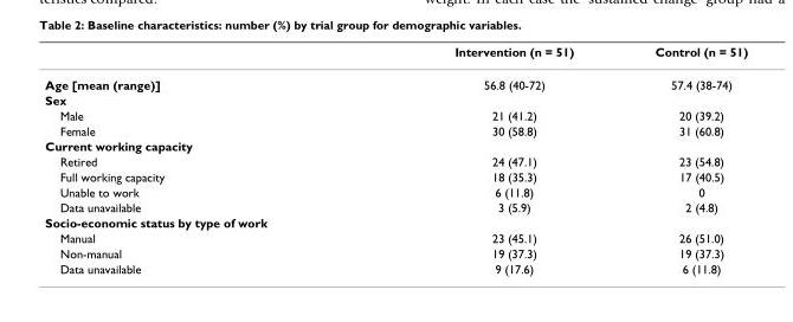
<table><thead><tr><td></td><td>Intervention (n = 51)</td><td>Control (n = 51)</td></tr></thead><tbody><tr><td>Age [mean (range)]</td><td>56.8 (40-72)</td><td>57.4 (38-74)</td></tr><tr><td colspan="3">Sex</td></tr><tr><td>Male</td><td>21 (41.2)</td><td>20 (39.2)</td></tr><tr><td>Female</td><td>30 (58.8)</td><td>31 (60.8)</td></tr><tr><td colspan="3">Current working capacity</td></tr><tr><td>Retired</td><td>24 (47.1)</td><td>23 (54.8)</td></tr><tr><td>Full working capacity</td><td>18 (35.3)</td><td>17 (40.5)</td></tr><tr><td>Unable to work</td><td>6 (11.8)</td><td>0</td></tr><tr><td>Data unavailable</td><td>3 (5.9)</td><td>2 (4.8)</td></tr><tr><td colspan="3">Socio-economic status by type of work</td></tr><tr><td>Manual</td><td>23 (45.1)</td><td>26 (51.0)</td></tr><tr><td>Non-manual</td><td>19 (37.3)</td><td>19 (37.3)</td></tr><tr><td>Data unavailable</td><td>9 (17.6)</td><td>6 (11.8)</td></tr></tbody></table>